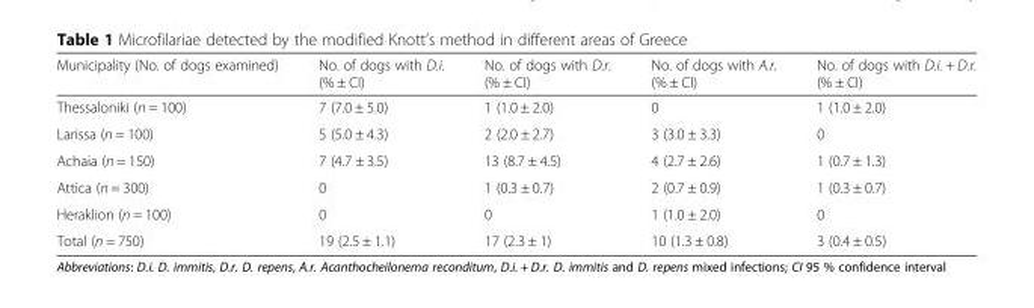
<table><thead><tr><td>Municipality (No. of dogs examined)</td><td>No. of dogs with D.i. (% ± CI)</td><td>No. of dogs with D.r. (% ± CI)</td><td>No. of dogs with A.r. (% ± CI)</td><td>No. of dogs with D.i. + D.r. (% ± CI)</td></tr></thead><tbody><tr><td>Thessaloniki (n = 100)</td><td>7 (7.0 ± 5.0)</td><td>1 (1.0 ± 2.0)</td><td>0</td><td>1 (1.0 ± 2.0)</td></tr><tr><td>Larissa (n = 100)</td><td>5 (5.0 ± 4.3)</td><td>2 (2.0 ± 2.7)</td><td>3 (3.0 ± 3.3)</td><td>0</td></tr><tr><td>Achaia (n = 150)</td><td>7 (4.7 ± 3.5)</td><td>13 (8.7 ± 4.5)</td><td>4 (2.7 ± 2.6)</td><td>1 (0.7 ± 1.3)</td></tr><tr><td>Attica (n = 300)</td><td>0</td><td>1 (0.3 ± 0.7)</td><td>2 (0.7 ± 0.9)</td><td>1 (0.3 ± 0.7)</td></tr><tr><td>Heraklion (n = 100)</td><td>0</td><td>0</td><td>1 (1.0 ± 2.0)</td><td>0</td></tr><tr><td>Total (n = 750)</td><td>19 (2.5 ± 1.1)</td><td>17 (2.3 ± 1)</td><td>10 (1.3 ± 0.8)</td><td>3 (0.4 ± 0.5)</td></tr></tbody></table>